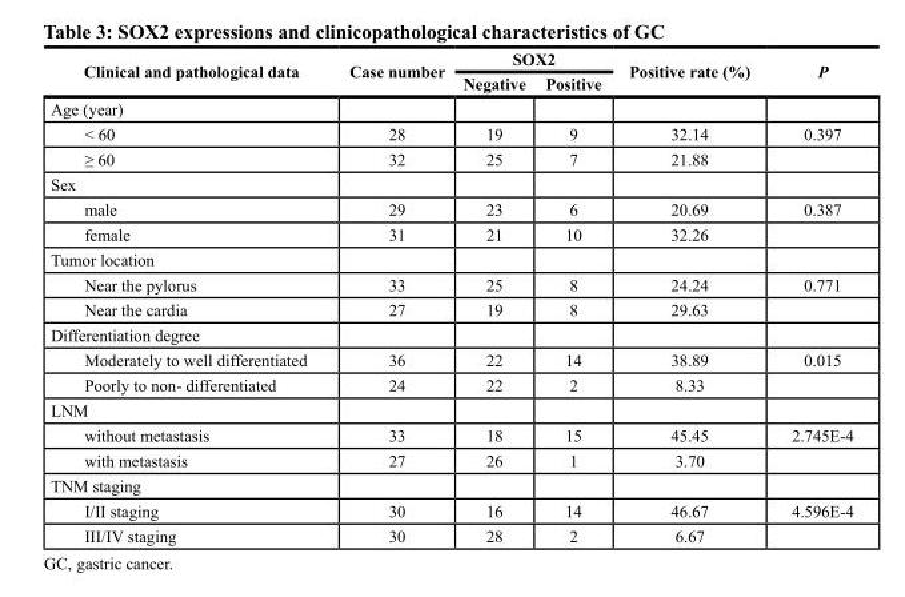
<table><thead><tr><td rowspan="2">Clinical and pathological data</td><td rowspan="2">Case number</td><td colspan="2">SOX2</td><td rowspan="2">Positive rate (%)</td><td rowspan="2">P</td></tr><tr><td>Negative</td><td>Positive</td></tr></thead><tbody><tr><td colspan="6">Age (year)</td></tr><tr><td>&lt; 60</td><td>28</td><td>19</td><td>9</td><td>32.14</td><td>0.397</td></tr><tr><td>≥ 60</td><td>32</td><td>25</td><td>7</td><td>21.88</td><td></td></tr><tr><td colspan="6">Sex</td></tr><tr><td>male</td><td>29</td><td>23</td><td>6</td><td>20.69</td><td>0.387</td></tr><tr><td>female</td><td>31</td><td>21</td><td>10</td><td>32.26</td><td></td></tr><tr><td colspan="6">Tumor location</td></tr><tr><td>Near the pylorus</td><td>33</td><td>25</td><td>8</td><td>24.24</td><td>0.771</td></tr><tr><td>Near the cardia</td><td>27</td><td>19</td><td>8</td><td>29.63</td><td></td></tr><tr><td colspan="6">Differentiation degree</td></tr><tr><td>Moderately to well differentiated</td><td>36</td><td>22</td><td>14</td><td>38.89</td><td>0.015</td></tr><tr><td>Poorly to non- differentiated</td><td>24</td><td>22</td><td>2</td><td>8.33</td><td></td></tr><tr><td colspan="6">LNM</td></tr><tr><td>without metastasis</td><td>33</td><td>18</td><td>15</td><td>45.45</td><td>2.745E-4</td></tr><tr><td>with metastasis</td><td>27</td><td>26</td><td>1</td><td>3.70</td><td></td></tr><tr><td colspan="6">TNM staging</td></tr><tr><td>I/II staging</td><td>30</td><td>16</td><td>14</td><td>46.67</td><td>4.596E-4</td></tr><tr><td>III/IV staging</td><td>30</td><td>28</td><td>2</td><td>6.67</td><td></td></tr></tbody></table>